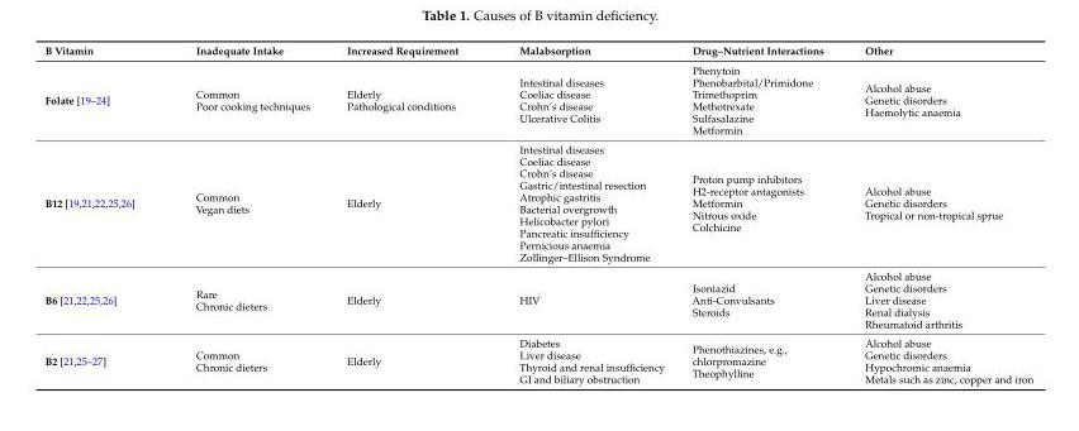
<table><thead><tr><td>B Vitamin</td><td>Inadequate Intake</td><td>Increased Requirement</td><td>Malabsorption</td><td>Drug–Nutrient Interactions</td><td>Other</td></tr></thead><tbody><tr><td>Folate [19–24]</td><td>Common Poor cooking techniques</td><td>Elderly Pathological conditions</td><td>Intestinal diseases Coeliac disease Crohn’s disease Ulcerative Colitis</td><td>Phenytoin Phenobarbital/Primidone Trimethoprim Methotrexate Sulfasalazine Metformin</td><td>Alcohol abuse Genetic disorders Haemolytic anaemia</td></tr><tr><td>B12 [19,21,22,25,26]</td><td>Common Vegan diets</td><td>Elderly</td><td>Intestinal diseases Coeliac disease Crohn’s disease Gastric/intestinal resection Atrophic gastritis Bacterial overgrowth Helicobacter pylori Pancreatic insufficiency Pernicious anaemia Zollinger–Ellison Syndrome</td><td>Proton pump inhibitors H2-receptor antagonists Metformin Nitrous oxide Colchicine</td><td>Alcohol abuse Genetic disorders Tropical or non-tropical sprue</td></tr><tr><td>B6 [21,22,25,26]</td><td>Rare Chronic dieters</td><td>Elderly</td><td>HIV</td><td>Isoniazid Anti-Convulsants Steroids</td><td>Alcohol abuse Genetic disorders Liver disease Renal dialysis Rheumatoid arthritis</td></tr><tr><td>B2 [21,25–27]</td><td>Common Chronic dieters</td><td>Elderly</td><td>Diabetes Liver disease Thyroid and renal insufficiency GI and biliary obstruction</td><td>Phenothiazines, e.g., chlorpromazine Theophylline</td><td>Alcohol abuse Genetic disorders Hypochromic anaemia Metals such as zinc, copper and iron</td></tr></tbody></table>